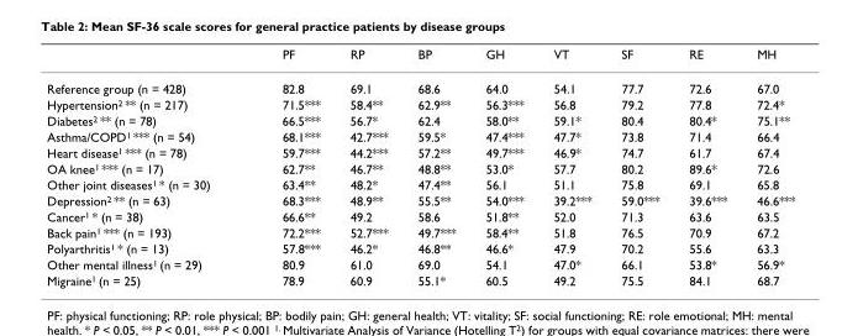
<table><thead><tr><td></td><td>PF</td><td>RP</td><td>BP</td><td>GH</td><td>VT</td><td>SF</td><td>RE</td><td>MH</td></tr></thead><tbody><tr><td>Reference group (n = 428)</td><td>82.8</td><td>69.1</td><td>68.6</td><td>64.0</td><td>54.1</td><td>77.7</td><td>72.6</td><td>67.0</td></tr><tr><td>Hypertension<sup>2</sup> ** (n = 217)</td><td>71.5***</td><td>58.4**</td><td>62.9**</td><td>56.3***</td><td>56.8</td><td>79.2</td><td>77.8</td><td>72.4*</td></tr><tr><td>Diabetes<sup>2</sup> ** (n = 78)</td><td>66.5***</td><td>56.7*</td><td>62.4</td><td>58.0**</td><td>59.1*</td><td>80.4</td><td>80.4*</td><td>75.1**</td></tr><tr><td>Asthma/COPD<sup>1</sup> *** (n = 54)</td><td>68.1***</td><td>42.7***</td><td>59.5*</td><td>47.4***</td><td>47.7*</td><td>73.8</td><td>71.4</td><td>66.4</td></tr><tr><td>Heart disease<sup>1</sup> *** (n = 78)</td><td>59.7***</td><td>44.2***</td><td>57.2**</td><td>49.7***</td><td>46.9*</td><td>74.7</td><td>61.7</td><td>67.4</td></tr><tr><td>OA knee<sup>1</sup> *** (n = 17)</td><td>62.7**</td><td>46.7**</td><td>48.8**</td><td>53.0*</td><td>57.7</td><td>80.2</td><td>89.6*</td><td>72.6</td></tr><tr><td>Other joint diseases<sup>1</sup> * (n = 30)</td><td>63.4**</td><td>48.2*</td><td>47.4**</td><td>56.1</td><td>51.1</td><td>75.8</td><td>69.1</td><td>65.8</td></tr><tr><td>Depression<sup>2</sup> ** (n = 63)</td><td>68.3***</td><td>48.9**</td><td>55.5**</td><td>54.0***</td><td>39.2***</td><td>59.0***</td><td>39.6***</td><td>46.6***</td></tr><tr><td>Cancer<sup>1</sup> * (n = 38)</td><td>66.6**</td><td>49.2</td><td>58.6</td><td>51.8**</td><td>52.0</td><td>71.3</td><td>63.6</td><td>63.5</td></tr><tr><td>Back pain<sup>1</sup> *** (n = 193)</td><td>72.2***</td><td>52.7***</td><td>49.7***</td><td>58.4**</td><td>51.8</td><td>76.5</td><td>70.9</td><td>67.2</td></tr><tr><td>Polyarthritis<sup>1</sup> * (n = 13)</td><td>57.8***</td><td>46.2*</td><td>46.8**</td><td>46.6*</td><td>47.9</td><td>70.2</td><td>55.6</td><td>63.3</td></tr><tr><td>Other mental illness<sup>1</sup> (n = 29)</td><td>80.9</td><td>61.0</td><td>69.0</td><td>54.1</td><td>47.0*</td><td>66.1</td><td>53.8*</td><td>56.9*</td></tr><tr><td>Migraine<sup>1</sup> (n = 25)</td><td>78.9</td><td>60.9</td><td>55.1*</td><td>60.5</td><td>49.2</td><td>75.5</td><td>84.1</td><td>68.7</td></tr></tbody></table>